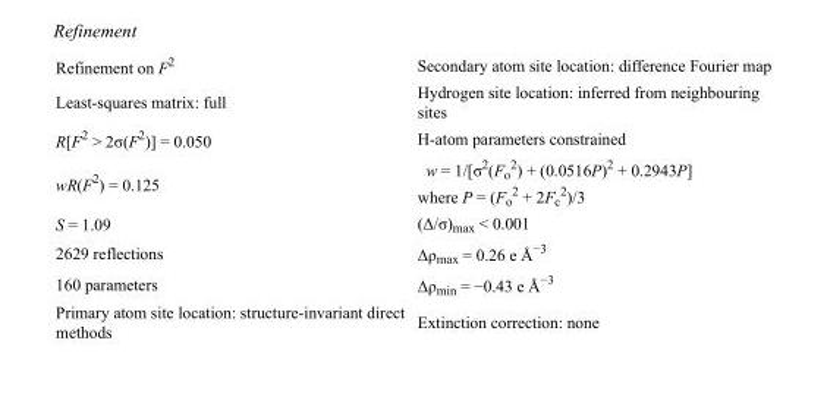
<table><tbody><tr><td>Refinement on F<sup>2</sup></td><td>Secondary atom site location: difference Fourier map</td></tr><tr><td>Least-squares matrix: full</td><td>Hydrogen site location: inferred from neighbouring sites</td></tr><tr><td>R[F<sup>2</sup> &gt; 2σ(F<sup>2</sup>)] = 0.050</td><td>H-atom parameters constrained</td></tr><tr><td>wR(F<sup>2</sup>) = 0.125</td><td>w = 1/[σ<sup>2</sup>(F<sub>o</sub> <sup>2</sup>) + (0.0516P)<sup>2</sup> + 0.2943P] where P = (F<sub>o</sub> <sup>2</sup> + 2F<sub>c</sub> <sup>2</sup>)/3</td></tr><tr><td>S = 1.09</td><td>(Δ/σ)<sub>max</sub> &lt; 0.001</td></tr><tr><td>2629 reflections</td><td>Δρ<sub>max</sub> = 0.26 e Å<sup>−3</sup></td></tr><tr><td>160 parameters</td><td>Δρ<sub>min</sub> = −0.43 e Å<sup>−3</sup></td></tr><tr><td>Primary atom site location: structure-invariant direct methods</td><td>Extinction correction: none</td></tr></tbody></table>